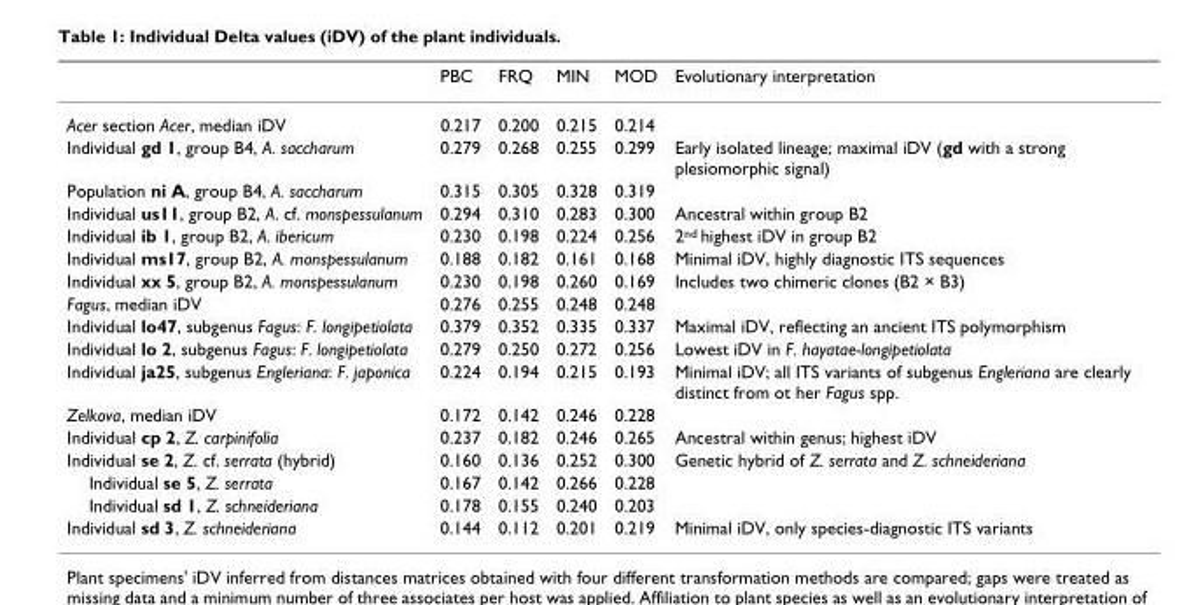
<table><thead><tr><td></td><td>PBC</td><td>FRQ</td><td>MIN</td><td>MOD</td><td>Evolutionary interpretation</td></tr></thead><tbody><tr><td>Acer section Acer, median iDV</td><td>0.217</td><td>0.200</td><td>0.215</td><td>0.214</td><td></td></tr><tr><td>Individual gd 1, group B4, A. saccharum</td><td>0.279</td><td>0.268</td><td>0.255</td><td>0.299</td><td>Early isolated lineage; maximal iDV (gd with a strong plesiomorphic signal)</td></tr><tr><td>Population ni A, group B4, A. saccharum</td><td>0.315</td><td>0.305</td><td>0.328</td><td>0.319</td><td></td></tr><tr><td>Individual us11, group B2, A. cf. monspessulanum</td><td>0.294</td><td>0.310</td><td>0.283</td><td>0.300</td><td>Ancestral within group B2</td></tr><tr><td>Individual ib 1, group B2, A. ibericum</td><td>0.230</td><td>0.198</td><td>0.224</td><td>0.256</td><td>2<sup>nd</sup> highest iDV in group B2</td></tr><tr><td>Individual ms17, group B2, A. monspessulanum</td><td>0.188</td><td>0.182</td><td>0.161</td><td>0.168</td><td>Minimal iDV, highly diagnostic ITS sequences</td></tr><tr><td>Individual xx 5, group B2, A. monspessulanum</td><td>0.230</td><td>0.198</td><td>0.260</td><td>0.169</td><td>Includes two chimeric clones (B2 × B3)</td></tr><tr><td>Fagus, median iDV</td><td>0.276</td><td>0.255</td><td>0.248</td><td>0.248</td><td></td></tr><tr><td>Individual lo47, subgenus Fagus: F. longipetiolata</td><td>0.379</td><td>0.352</td><td>0.335</td><td>0.337</td><td>Maximal iDV, reflecting an ancient ITS polymorphism</td></tr><tr><td>Individual lo 2, subgenus Fagus: F. longipetiolata</td><td>0.279</td><td>0.250</td><td>0.272</td><td>0.256</td><td>Lowest iDV in F. hayatae-longipetiolata</td></tr><tr><td>Individual ja25, subgenus Engleriana: F. japonica</td><td>0.224</td><td>0.194</td><td>0.215</td><td>0.193</td><td>Minimal iDV; all ITS variants of subgenus Engleriana are clearly distinct from ot her Fagus spp.</td></tr><tr><td>Zelkova, median iDV</td><td>0.172</td><td>0.142</td><td>0.246</td><td>0.228</td><td></td></tr><tr><td>Individual cp 2, Z. carpinifolia</td><td>0.237</td><td>0.182</td><td>0.246</td><td>0.265</td><td>Ancestral within genus; highest iDV</td></tr><tr><td>Individual se 2, Z. cf. serrata (hybrid)</td><td>0.160</td><td>0.136</td><td>0.252</td><td>0.300</td><td>Genetic hybrid of Z. serrata and Z. schneideriana</td></tr><tr><td>Individual se 5, Z. serrata</td><td>0.167</td><td>0.142</td><td>0.266</td><td>0.228</td><td></td></tr><tr><td>Individual sd 1, Z. schneideriana</td><td>0.178</td><td>0.155</td><td>0.240</td><td>0.203</td><td></td></tr><tr><td>Individual sd 3, Z. schneideriana</td><td>0.144</td><td>0.112</td><td>0.201</td><td>0.219</td><td>Minimal iDV, only species-diagnostic ITS variants</td></tr></tbody></table>